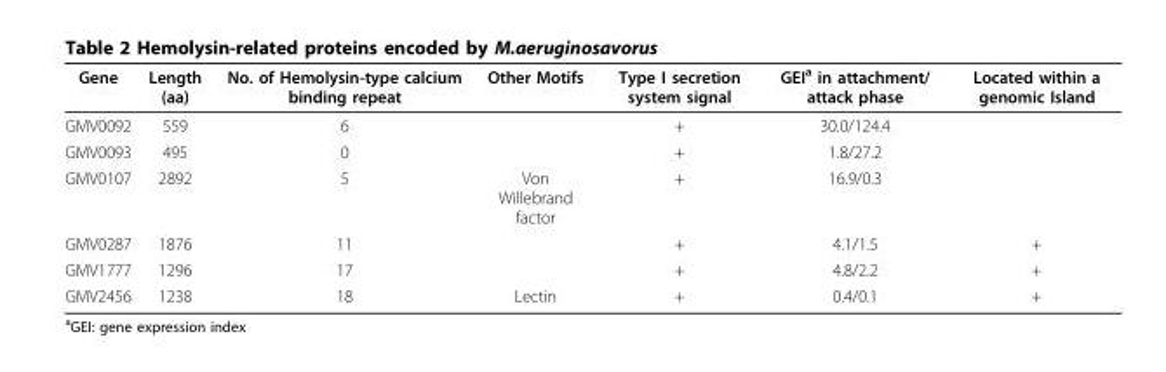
<table><thead><tr><td>Gene</td><td>Length (aa)</td><td>No. of Hemolysin-type calcium binding repeat</td><td>Other Motifs</td><td>Type I secretion system signal</td><td>GEI<sup>a</sup> in attachment/ attack phase</td><td>Located within a genomic Island</td></tr></thead><tbody><tr><td>GMV0092</td><td>559</td><td>6</td><td></td><td>+</td><td>30.0/124.4</td><td></td></tr><tr><td>GMV0093</td><td>495</td><td>0</td><td></td><td>+</td><td>1.8/27.2</td><td></td></tr><tr><td>GMV0107</td><td>2892</td><td>5</td><td>Von Willebrand factor</td><td>+</td><td>16.9/0.3</td><td></td></tr><tr><td>GMV0287</td><td>1876</td><td>11</td><td></td><td>+</td><td>4.1/1.5</td><td>+</td></tr><tr><td>GMV1777</td><td>1296</td><td>17</td><td></td><td>+</td><td>4.8/2.2</td><td>+</td></tr><tr><td>GMV2456</td><td>1238</td><td>18</td><td>Lectin</td><td>+</td><td>0.4/0.1</td><td>+</td></tr></tbody></table>